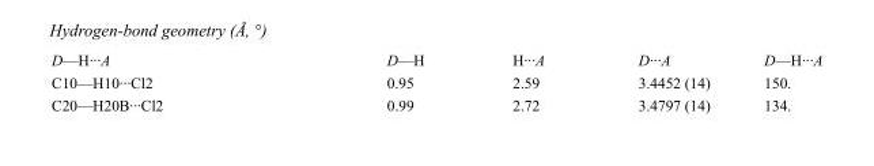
<table><tbody><tr><td>D—H···A</td><td>D—H</td><td>H···A</td><td>D···A</td><td>D—H···A</td></tr><tr><td>C10—H10···Cl2</td><td>0.95</td><td>2.59</td><td>3.4452 (14)</td><td>150.</td></tr><tr><td>C20—H20B···Cl2</td><td>0.99</td><td>2.72</td><td>3.4797 (14)</td><td>134.</td></tr></tbody></table>